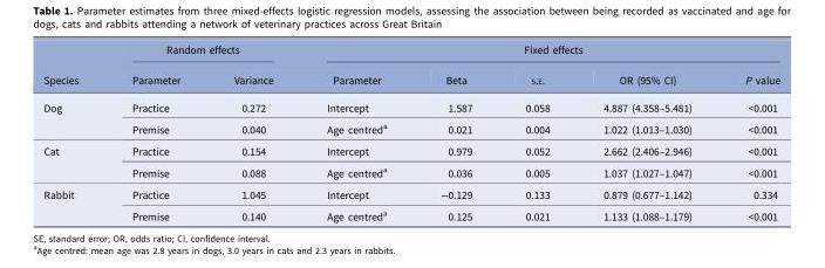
<table><thead><tr><td rowspan="2">Species</td><td colspan="2">Random effects</td><td colspan="5">Fixed effects</td></tr><tr><td>Parameter</td><td>Variance</td><td>Parameter</td><td>Beta</td><td>S.E.</td><td>OR (95% CI)</td><td>P value</td></tr></thead><tbody><tr><td rowspan="2">Dog</td><td>Practice</td><td>0.272</td><td>Intercept</td><td>1.587</td><td>0.058</td><td>4.887 (4.358–5.481)</td><td>&lt;0.001</td></tr><tr><td>Premise</td><td>0.040</td><td>Age centred<sup>a</sup></td><td>0.021</td><td>0.004</td><td>1.022 (1.013–1.030)</td><td>&lt;0.001</td></tr><tr><td rowspan="2">Cat</td><td>Practice</td><td>0.154</td><td>Intercept</td><td>0.979</td><td>0.052</td><td>2.662 (2.406–2.946)</td><td>&lt;0.001</td></tr><tr><td>Premise</td><td>0.088</td><td>Age centred<sup>a</sup></td><td>0.036</td><td>0.005</td><td>1.037 (1.027–1.047)</td><td>&lt;0.001</td></tr><tr><td rowspan="2">Rabbit</td><td>Practice</td><td>1.045</td><td>Intercept</td><td>−0.129</td><td>0.133</td><td>0.879 (0.677–1.142)</td><td>0.334</td></tr><tr><td>Premise</td><td>0.140</td><td>Age centred<sup>a</sup></td><td>0.125</td><td>0.021</td><td>1.133 (1.088–1.179)</td><td>&lt;0.001</td></tr></tbody></table>